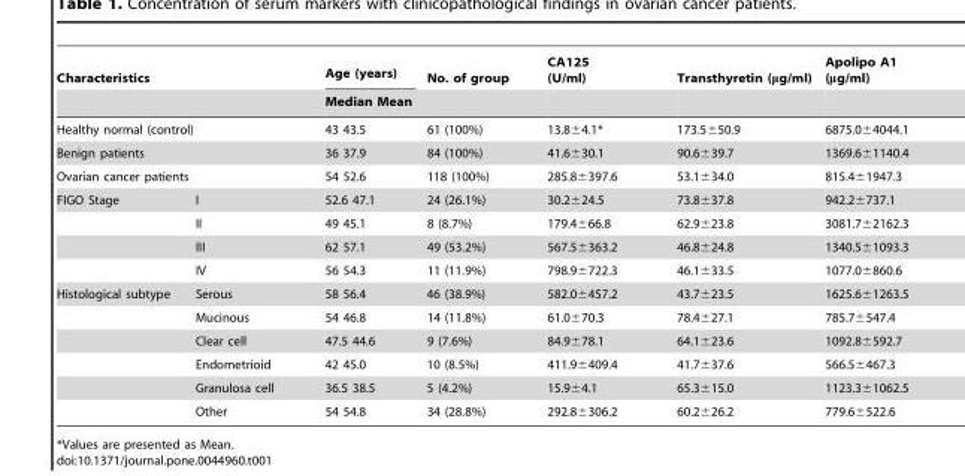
<table><thead><tr><td colspan="2">Characteristics</td><td rowspan="2">Age (years) Median Mean</td><td rowspan="2">No. of group</td><td rowspan="2">CA125 (U/ml)</td><td rowspan="2">Transthyretin (μg/ml)</td><td rowspan="2">Apolipo A1 (μg/ml)</td></tr><tr><td></td><td></td></tr></thead><tbody><tr><td colspan="2">Healthy normal (control)</td><td>43 43.5</td><td>61 (100%)</td><td>13.8±4.1*</td><td>173.5±50.9</td><td>6875.0±4044.1</td></tr><tr><td colspan="2">Benign patients</td><td>36 37.9</td><td>84 (100%)</td><td>41.6±30.1</td><td>90.6±39.7</td><td>1369.6±1140.4</td></tr><tr><td colspan="2">Ovarian cancer patients</td><td>54 52.6</td><td>118 (100%)</td><td>285.8±397.6</td><td>53.1±34.0</td><td>815.4±1947.3</td></tr><tr><td rowspan="4">FIGO Stage</td><td>I</td><td>52.6 47.1</td><td>24 (26.1%)</td><td>30.2±24.5</td><td>73.8±37.8</td><td>942.2±737.1</td></tr><tr><td>II</td><td>49 45.1</td><td>8 (8.7%)</td><td>179.4±66.8</td><td>62.9±23.8</td><td>3081.7±2162.3</td></tr><tr><td>III</td><td>62 57.1</td><td>49 (53.2%)</td><td>567.5±363.2</td><td>46.8±24.8</td><td>1340.5±1093.3</td></tr><tr><td>IV</td><td>56 54.3</td><td>11 (11.9%)</td><td>798.9±722.3</td><td>46.1±33.5</td><td>1077.0±860.6</td></tr><tr><td rowspan="6">Histological subtype</td><td>Serous</td><td>58 56.4</td><td>46 (38.9%)</td><td>582.0±457.2</td><td>43.7±23.5</td><td>1625.6±1263.5</td></tr><tr><td>Mucinous</td><td>54 46.8</td><td>14 (11.8%)</td><td>61.0±70.3</td><td>78.4±27.1</td><td>785.7±547.4</td></tr><tr><td>Clear cell</td><td>47.5 44.6</td><td>9 (7.6%)</td><td>84.9±78.1</td><td>64.1±23.6</td><td>1092.8±592.7</td></tr><tr><td>Endometrioid</td><td>42 45.0</td><td>10 (8.5%)</td><td>411.9±409.4</td><td>41.7±37.6</td><td>566.5±467.3</td></tr><tr><td>Granulosa cell</td><td>36.5 38.5</td><td>5 (4.2%)</td><td>15.9±4.1</td><td>65.3±15.0</td><td>1123.3±1062.5</td></tr><tr><td>Other</td><td>54 54.8</td><td>34 (28.8%)</td><td>292.8±306.2</td><td>60.2±26.2</td><td>779.6±522.6</td></tr></tbody></table>